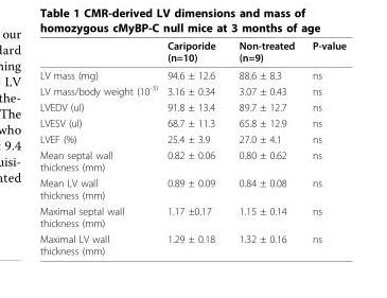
<table><thead><tr><td></td><td>Cariporide (n=10)</td><td>Non-treated (n=9)</td><td>P-value</td></tr></thead><tbody><tr><td>LV mass (mg)</td><td>94.6 ± 12.6</td><td>88.6 ± 8.3</td><td>ns</td></tr><tr><td>LV mass/body weight (10<sup>-3)</sup></td><td>3.16 ± 0.34</td><td>3.07 ± 0.43</td><td>ns</td></tr><tr><td>LVEDV (ul)</td><td>91.8 ± 13.4</td><td>89.7 ± 12.7</td><td>ns</td></tr><tr><td>LVESV (ul)</td><td>68.7 ± 11.3</td><td>65.8 ± 12.9</td><td>ns</td></tr><tr><td>LVEF (%)</td><td>25.4 ± 3.9</td><td>27.0 ± 4.1</td><td>ns</td></tr><tr><td>Mean septal wall thickness (mm)</td><td>0.82 ± 0.06</td><td>0.80 ± 0.62</td><td>ns</td></tr><tr><td>Mean LV wall thickness (mm)</td><td>0.89 ± 0.09</td><td>0.84 ± 0.08</td><td>ns</td></tr><tr><td>Maximal septal wall thickness (mm)</td><td>1.17 ±0.17</td><td>1.15 ± 0.14</td><td>ns</td></tr><tr><td>Maximal LV wall thickness (mm)</td><td>1.29 ± 0.18</td><td>1.32 ± 0.16</td><td>ns</td></tr></tbody></table>